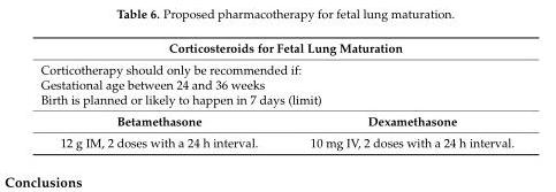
<table><thead><tr><td rowspan="2" colspan="2">Corticosteroids for Fetal Lung Maturation Corticotherapy should only be recommended if: Gestational age between 24 and 36 weeks Birth is planned or likely to happen in 7 days (limit)</td></tr><tr></tr><tr><td>Betamethasone</td><td>Dexamethasone</td></tr></thead><tbody><tr><td>12 g IM, 2 doses with a 24 h interval.</td><td>10 mg IV, 2 doses with a 24 h interval.</td></tr></tbody></table>